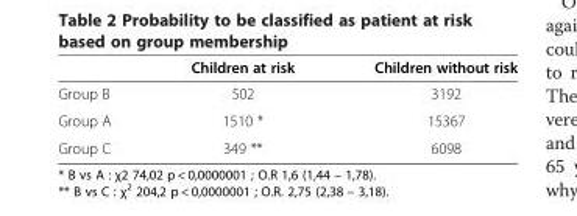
<table><thead><tr><td></td><td>Children at risk</td><td>Children without risk</td></tr></thead><tbody><tr><td>Group B</td><td>502</td><td>3192</td></tr><tr><td>Group A</td><td>1510 *</td><td>15367</td></tr><tr><td>Group C</td><td>349 **</td><td>6098</td></tr></tbody></table>